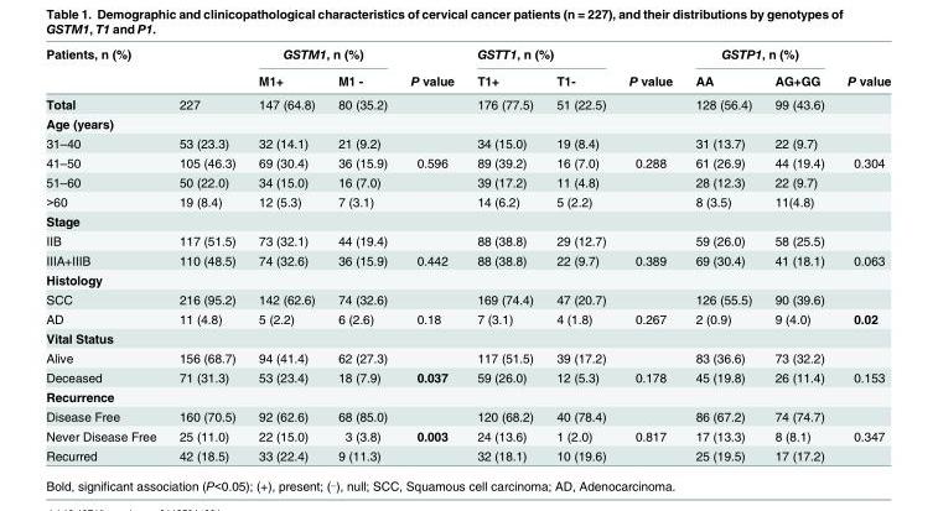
<table><thead><tr><td rowspan="2">Patients, n (%)</td><td rowspan="2"></td><td colspan="2">GSTM1, n (%)</td><td rowspan="2">P value</td><td colspan="2">GSTT1, n (%)</td><td rowspan="2">P value</td><td colspan="2">GSTP1, n (%)</td><td rowspan="2">P value</td></tr><tr><td>M1+</td><td>M1 -</td><td>T1+</td><td>T1-</td><td>AA</td><td>AG+GG</td></tr></thead><tbody><tr><td>Total</td><td>227</td><td>147 (64.8)</td><td>80 (35.2)</td><td></td><td>176 (77.5)</td><td>51 (22.5)</td><td></td><td>128 (56.4)</td><td>99 (43.6)</td><td></td></tr><tr><td colspan="11">Age (years)</td></tr><tr><td>31–40</td><td>53 (23.3)</td><td>32 (14.1)</td><td>21 (9.2)</td><td></td><td>34 (15.0)</td><td>19 (8.4)</td><td></td><td>31 (13.7)</td><td>22 (9.7)</td><td></td></tr><tr><td>41–50</td><td>105 (46.3)</td><td>69 (30.4)</td><td>36 (15.9)</td><td>0.596</td><td>89 (39.2)</td><td>16 (7.0)</td><td>0.288</td><td>61 (26.9)</td><td>44 (19.4)</td><td>0.304</td></tr><tr><td>51–60</td><td>50 (22.0)</td><td>34 (15.0)</td><td>16 (7.0)</td><td></td><td>39 (17.2)</td><td>11 (4.8)</td><td></td><td>28 (12.3)</td><td>22 (9.7)</td><td></td></tr><tr><td>&gt;60</td><td>19 (8.4)</td><td>12 (5.3)</td><td>7 (3.1)</td><td></td><td>14 (6.2)</td><td>5 (2.2)</td><td></td><td>8 (3.5)</td><td>11(4.8)</td><td></td></tr><tr><td colspan="11">Stage</td></tr><tr><td>IIB</td><td>117 (51.5)</td><td>73 (32.1)</td><td>44 (19.4)</td><td></td><td>88 (38.8)</td><td>29 (12.7)</td><td></td><td>59 (26.0)</td><td>58 (25.5)</td><td></td></tr><tr><td>IIIA+IIIB</td><td>110 (48.5)</td><td>74 (32.6)</td><td>36 (15.9)</td><td>0.442</td><td>88 (38.8)</td><td>22 (9.7)</td><td>0.389</td><td>69 (30.4)</td><td>41 (18.1)</td><td>0.063</td></tr><tr><td colspan="11">Histology</td></tr><tr><td>SCC</td><td>216 (95.2)</td><td>142 (62.6)</td><td>74 (32.6)</td><td></td><td>169 (74.4)</td><td>47 (20.7)</td><td></td><td>126 (55.5)</td><td>90 (39.6)</td><td></td></tr><tr><td>AD</td><td>11 (4.8)</td><td>5 (2.2)</td><td>6 (2.6)</td><td>0.18</td><td>7 (3.1)</td><td>4 (1.8)</td><td>0.267</td><td>2 (0.9)</td><td>9 (4.0)</td><td>0.02</td></tr><tr><td colspan="11">Vital Status</td></tr><tr><td>Alive</td><td>156 (68.7)</td><td>94 (41.4)</td><td>62 (27.3)</td><td></td><td>117 (51.5)</td><td>39 (17.2)</td><td></td><td>83 (36.6)</td><td>73 (32.2)</td><td></td></tr><tr><td>Deceased</td><td>71 (31.3)</td><td>53 (23.4)</td><td>18 (7.9)</td><td>0.037</td><td>59 (26.0)</td><td>12 (5.3)</td><td>0.178</td><td>45 (19.8)</td><td>26 (11.4)</td><td>0.153</td></tr><tr><td colspan="11">Recurrence</td></tr><tr><td>Disease Free</td><td>160 (70.5)</td><td>92 (62.6)</td><td>68 (85.0)</td><td></td><td>120 (68.2)</td><td>40 (78.4)</td><td></td><td>86 (67.2)</td><td>74 (74.7)</td><td></td></tr><tr><td>Never Disease Free</td><td>25 (11.0)</td><td>22 (15.0)</td><td>3 (3.8)</td><td>0.003</td><td>24 (13.6)</td><td>1 (2.0)</td><td>0.817</td><td>17 (13.3)</td><td>8 (8.1)</td><td>0.347</td></tr><tr><td>Recurred</td><td>42 (18.5)</td><td>33 (22.4)</td><td>9 (11.3)</td><td></td><td>32 (18.1)</td><td>10 (19.6)</td><td></td><td>25 (19.5)</td><td>17 (17.2)</td><td></td></tr></tbody></table>